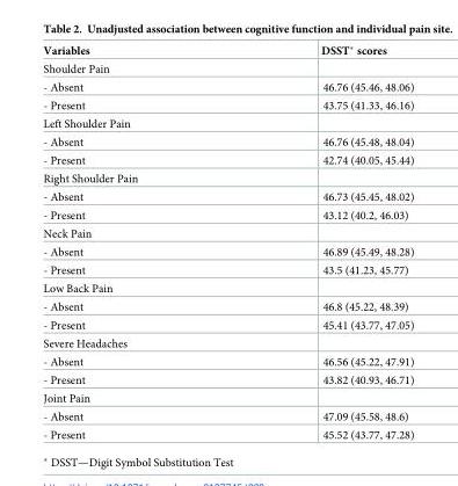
<table><thead><tr><td>Variables</td><td>DSST* scores</td></tr></thead><tbody><tr><td colspan="2">Shoulder Pain</td></tr><tr><td>- Absent</td><td>46.76 (45.46, 48.06)</td></tr><tr><td>- Present</td><td>43.75 (41.33, 46.16)</td></tr><tr><td colspan="2">Left Shoulder Pain</td></tr><tr><td>- Absent</td><td>46.76 (45.48, 48.04)</td></tr><tr><td>- Present</td><td>42.74 (40.05, 45.44)</td></tr><tr><td colspan="2">Right Shoulder Pain</td></tr><tr><td>- Absent</td><td>46.73 (45.45, 48.02)</td></tr><tr><td>- Present</td><td>43.12 (40.2, 46.03)</td></tr><tr><td colspan="2">Neck Pain</td></tr><tr><td>- Absent</td><td>46.89 (45.49, 48.28)</td></tr><tr><td>- Present</td><td>43.5 (41.23, 45.77)</td></tr><tr><td colspan="2">Low Back Pain</td></tr><tr><td>- Absent</td><td>46.8 (45.22, 48.39)</td></tr><tr><td>- Present</td><td>45.41 (43.77, 47.05)</td></tr><tr><td colspan="2">Severe Headaches</td></tr><tr><td>- Absent</td><td>46.56 (45.22, 47.91)</td></tr><tr><td>- Present</td><td>43.82 (40.93, 46.71)</td></tr><tr><td colspan="2">Joint Pain</td></tr><tr><td>- Absent</td><td>47.09 (45.58, 48.6)</td></tr><tr><td>- Present</td><td>45.52 (43.77, 47.28)</td></tr></tbody></table>